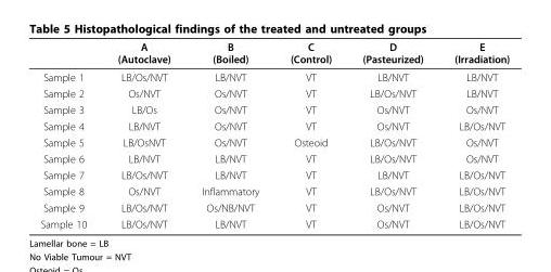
<table><thead><tr><td></td><td>A (Autoclave)</td><td>B (Boiled)</td><td>C (Control)</td><td>D (Pasteurized)</td><td>E (Irradiation)</td></tr></thead><tbody><tr><td>Sample 1</td><td>LB/Os/NVT</td><td>LB/NVT</td><td>VT</td><td>LB/NVT</td><td>LB/NVT</td></tr><tr><td>Sample 2</td><td>Os/NVT</td><td>Os/NVT</td><td>VT</td><td>LB/Os/NVT</td><td>LB/NVT</td></tr><tr><td>Sample 3</td><td>LB/Os</td><td>Os/NVT</td><td>VT</td><td>Os/NVT</td><td>Os/NVT</td></tr><tr><td>Sample 4</td><td>LB/NVT</td><td>Os/NVT</td><td>VT</td><td>Os/NVT</td><td>LB/Os/NVT</td></tr><tr><td>Sample 5</td><td>LB/OsNVT</td><td>Os/NVT</td><td>Osteoid</td><td>LB/Os/NVT</td><td>Os/NVT</td></tr><tr><td>Sample 6</td><td>LB/NVT</td><td>LB/NVT</td><td>VT</td><td>LB/Os/NVT</td><td>Os/NVT</td></tr><tr><td>Sample 7</td><td>LB/Os/NVT</td><td>LB/NVT</td><td>VT</td><td>LB/NVT</td><td>LB/Os/NVT</td></tr><tr><td>Sample 8</td><td>Os/NVT</td><td>Inflammatory</td><td>VT</td><td>LB/Os/NVT</td><td>LB/Os/NVT</td></tr><tr><td>Sample 9</td><td>LB/Os/NVT</td><td>Os/NB/NVT</td><td>VT</td><td>Os/NVT</td><td>LB/Os/NVT</td></tr><tr><td>Sample 10</td><td>LB/Os/NVT</td><td>LB/NVT</td><td>VT</td><td>Os/NVT</td><td>LB/Os/NVT</td></tr></tbody></table>